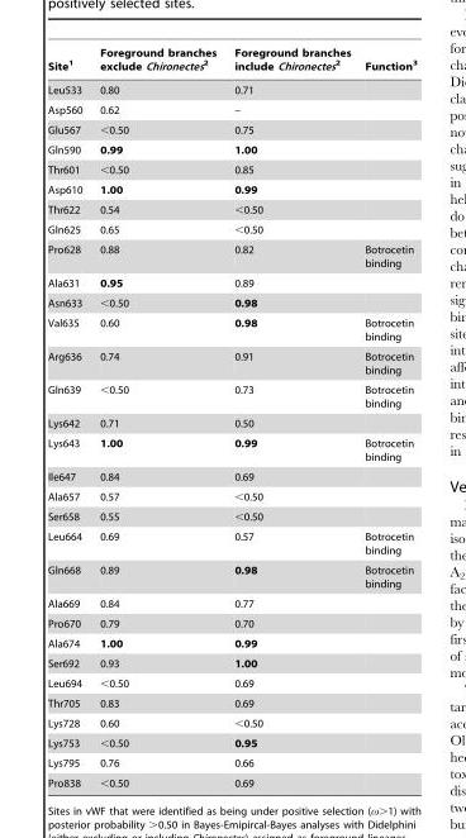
<table><thead><tr><td>Site<sup>1</sup></td><td>Foreground branches exclude Chironectes2</td><td>Foreground branches include Chironectes2</td><td>Function<sup>3</sup></td></tr></thead><tbody><tr><td>Leu533</td><td>0.80</td><td>0.71</td><td></td></tr><tr><td>Asp560</td><td>0.62</td><td>–</td><td></td></tr><tr><td>Glu567</td><td>&lt;0.50</td><td>0.75</td><td></td></tr><tr><td>Gln590</td><td>0.99</td><td>1.00</td><td></td></tr><tr><td>Thr601</td><td>&lt;0.50</td><td>0.85</td><td></td></tr><tr><td>Asp610</td><td>1.00</td><td>0.99</td><td></td></tr><tr><td>Thr622</td><td>0.54</td><td>&lt;0.50</td><td></td></tr><tr><td>Gln625</td><td>0.65</td><td>&lt;0.50</td><td></td></tr><tr><td>Pro628</td><td>0.88</td><td>0.82</td><td>Botrocetin binding</td></tr><tr><td>Ala631</td><td>0.95</td><td>0.89</td><td></td></tr><tr><td>Asn633</td><td>&lt;0.50</td><td>0.98</td><td></td></tr><tr><td>Val635</td><td>0.60</td><td>0.98</td><td>Botrocetin binding</td></tr><tr><td>Arg636</td><td>0.74</td><td>0.91</td><td>Botrocetin binding</td></tr><tr><td>Gln639</td><td>&lt;0.50</td><td>0.73</td><td>Botrocetin binding</td></tr><tr><td>Lys642</td><td>0.71</td><td>0.50</td><td></td></tr><tr><td>Lys643</td><td>1.00</td><td>0.99</td><td>Botrocetin binding</td></tr><tr><td>Ile647</td><td>0.84</td><td>0.69</td><td></td></tr><tr><td>Ala657</td><td>0.57</td><td>&lt;0.50</td><td></td></tr><tr><td>Ser658</td><td>0.55</td><td>&lt;0.50</td><td></td></tr><tr><td>Leu664</td><td>0.69</td><td>0.57</td><td>Botrocetin binding</td></tr><tr><td>Gln668</td><td>0.89</td><td>0.98</td><td>Botrocetin binding</td></tr><tr><td>Ala669</td><td>0.84</td><td>0.77</td><td></td></tr><tr><td>Pro670</td><td>0.79</td><td>0.70</td><td></td></tr><tr><td>Ala674</td><td>1.00</td><td>0.99</td><td></td></tr><tr><td>Ser692</td><td>0.93</td><td>1.00</td><td></td></tr><tr><td>Leu694</td><td>&lt;0.50</td><td>0.69</td><td></td></tr><tr><td>Thr705</td><td>0.83</td><td>0.69</td><td></td></tr><tr><td>Lys728</td><td>0.60</td><td>&lt;0.50</td><td></td></tr><tr><td>Lys753</td><td>&lt;0.50</td><td>0.95</td><td></td></tr><tr><td>Lys795</td><td>0.76</td><td>0.66</td><td></td></tr><tr><td>Pro838</td><td>&lt;0.50</td><td>0.69</td><td></td></tr></tbody></table>